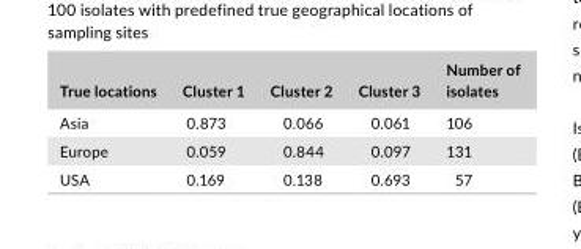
<table><thead><tr><td>True locations</td><td>Cluster 1</td><td>Cluster 2</td><td>Cluster 3</td><td>Number of isolates</td></tr></thead><tbody><tr><td>Asia</td><td>0.873</td><td>0.066</td><td>0.061</td><td>106</td></tr><tr><td>Europe</td><td>0.059</td><td>0.844</td><td>0.097</td><td>131</td></tr><tr><td>USA</td><td>0.169</td><td>0.138</td><td>0.693</td><td>57</td></tr></tbody></table>